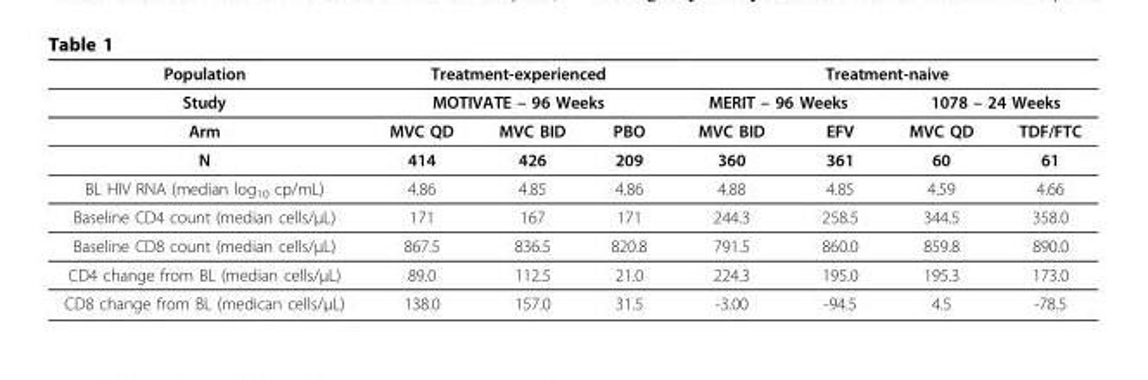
<table><thead><tr><td rowspan="3">Population Study Arm</td><td rowspan="2" colspan="3">Treatment-experienced MOTIVATE – 96 Weeks</td><td colspan="4">Treatment-naive</td></tr><tr><td colspan="2">MERIT – 96 Weeks</td><td colspan="2">1078 – 24 Weeks</td></tr><tr><td>MVC QD</td><td>MVC BID</td><td>PBO</td><td>MVC BID</td><td>EFV</td><td>MVC QD</td><td>TDF/FTC</td></tr></thead><tbody><tr><td>N</td><td>414</td><td>426</td><td>209</td><td>360</td><td>361</td><td>60</td><td>61</td></tr><tr><td>BL HIV RNA (median log<sub>10</sub> cp/mL)</td><td>4.86</td><td>4.85</td><td>4.86</td><td>4.88</td><td>4.85</td><td>4.59</td><td>4.66</td></tr><tr><td>Baseline CD4 count (median cells/µL)</td><td>171</td><td>167</td><td>171</td><td>244.3</td><td>258.5</td><td>344.5</td><td>358.0</td></tr><tr><td>Baseline CD8 count (median cells/µL)</td><td>867.5</td><td>836.5</td><td>820.8</td><td>791.5</td><td>860.0</td><td>859.8</td><td>890.0</td></tr><tr><td>CD4 change from BL (median cells/µL)</td><td>89.0</td><td>112.5</td><td>21.0</td><td>224.3</td><td>195.0</td><td>195.3</td><td>173.0</td></tr><tr><td>CD8 change from BL (medican cells/µL)</td><td>138.0</td><td>157.0</td><td>31.5</td><td>-3.00</td><td>-94.5</td><td>4.5</td><td>-78.5</td></tr></tbody></table>